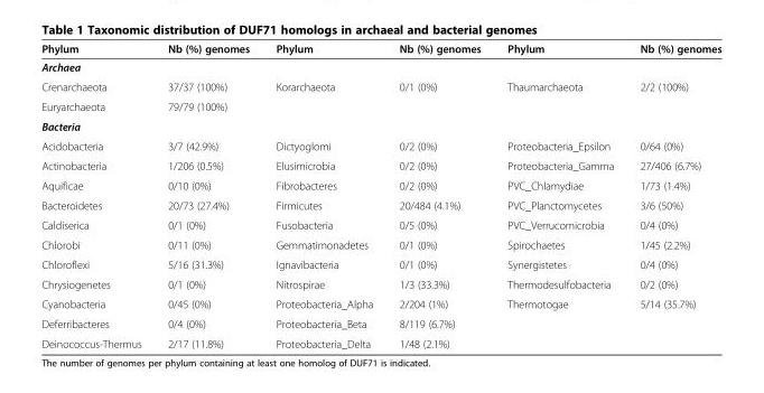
<table><thead><tr><td>Phylum</td><td>Nb (%) genomes</td><td>Phylum</td><td>Nb (%) genomes</td><td>Phylum</td><td>Nb (%) genomes</td></tr></thead><tbody><tr><td colspan="6">Archaea</td></tr><tr><td>Crenarchaeota</td><td>37/37 (100%)</td><td>Korarchaeota</td><td>0/1 (0%)</td><td>Thaumarchaeota</td><td>2/2 (100%)</td></tr><tr><td>Euryarchaeota</td><td>79/79 (100%)</td><td></td><td></td><td></td><td></td></tr><tr><td colspan="6">Bacteria</td></tr><tr><td>Acidobacteria</td><td>3/7 (42.9%)</td><td>Dictyoglomi</td><td>0/2 (0%)</td><td>Proteobacteria_Epsilon</td><td>0/64 (0%)</td></tr><tr><td>Actinobacteria</td><td>1/206 (0.5%)</td><td>Elusimicrobia</td><td>0/2 (0%)</td><td>Proteobacteria_Gamma</td><td>27/406 (6.7%)</td></tr><tr><td>Aquificae</td><td>0/10 (0%)</td><td>Fibrobacteres</td><td>0/2 (0%)</td><td>PVC_Chlamydiae</td><td>1/73 (1.4%)</td></tr><tr><td>Bacteroidetes</td><td>20/73 (27.4%)</td><td>Firmicutes</td><td>20/484 (4.1%)</td><td>PVC_Planctomycetes</td><td>3/6 (50%)</td></tr><tr><td>Caldiserica</td><td>0/1 (0%)</td><td>Fusobacteria</td><td>0/5 (0%)</td><td>PVC_Verrucomicrobia</td><td>0/4 (0%)</td></tr><tr><td>Chlorobi</td><td>0/11 (0%)</td><td>Gemmatimonadetes</td><td>0/1 (0%)</td><td>Spirochaetes</td><td>1/45 (2.2%)</td></tr><tr><td>Chloroflexi</td><td>5/16 (31.3%)</td><td>Ignavibacteria</td><td>0/1 (0%)</td><td>Synergistetes</td><td>0/4 (0%)</td></tr><tr><td>Chrysiogenetes</td><td>0/1 (0%)</td><td>Nitrospirae</td><td>1/3 (33.3%)</td><td>Thermodesulfobacteria</td><td>0/2 (0%)</td></tr><tr><td>Cyanobacteria</td><td>0/45 (0%)</td><td>Proteobacteria_Alpha</td><td>2/204 (1%)</td><td>Thermotogae</td><td>5/14 (35.7%)</td></tr><tr><td>Deferribacteres</td><td>0/4 (0%)</td><td>Proteobacteria_Beta</td><td>8/119 (6.7%)</td><td></td><td></td></tr><tr><td>Deinococcus-Thermus</td><td>2/17 (11.8%)</td><td>Proteobacteria_Delta</td><td>1/48 (2.1%)</td><td></td><td></td></tr></tbody></table>